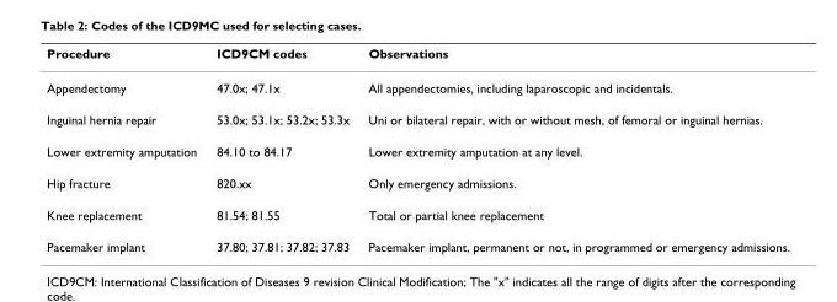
<table><thead><tr><td>Procedure</td><td>ICD9CM codes</td><td>Observations</td></tr></thead><tbody><tr><td>Appendectomy</td><td>47.0x; 47.1x</td><td>All appendectomies, including laparoscopic and incidentals.</td></tr><tr><td>Inguinal hernia repair</td><td>53.0x; 53.1x; 53.2x; 53.3x</td><td>Uni or bilateral repair, with or without mesh, of femoral or inguinal hernias.</td></tr><tr><td>Lower extremity amputation</td><td>84.10 to 84.17</td><td>Lower extremity amputation at any level.</td></tr><tr><td>Hip fracture</td><td>820.xx</td><td>Only emergency admissions.</td></tr><tr><td>Knee replacement</td><td>81.54; 81.55</td><td>Total or partial knee replacement</td></tr><tr><td>Pacemaker implant</td><td>37.80; 37.81; 37.82; 37.83</td><td>Pacemaker implant, permanent or not, in programmed or emergency admissions.</td></tr></tbody></table>